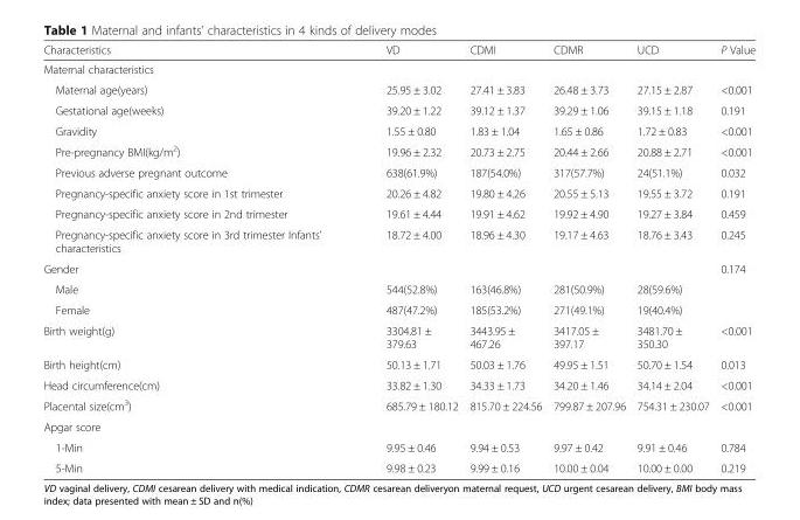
<table><thead><tr><td>Characteristics</td><td>VD</td><td>CDMI</td><td>CDMR</td><td>UCD</td><td>P Value</td></tr></thead><tbody><tr><td colspan="6">Maternal characteristics</td></tr><tr><td>Maternal age(years)</td><td>25.95 ± 3.02</td><td>27.41 ± 3.83</td><td>26.48 ± 3.73</td><td>27.15 ± 2.87</td><td>&lt;0.001</td></tr><tr><td>Gestational age(weeks)</td><td>39.20 ± 1.22</td><td>39.12 ± 1.37</td><td>39.29 ± 1.06</td><td>39.15 ± 1.18</td><td>0.191</td></tr><tr><td>Gravidity</td><td>1.55 ± 0.80</td><td>1.83 ± 1.04</td><td>1.65 ± 0.86</td><td>1.72 ± 0.83</td><td>&lt;0.001</td></tr><tr><td>Pre-pregnancy BMI(kg/m<sup>2</sup>)</td><td>19.96 ± 2.32</td><td>20.73 ± 2.75</td><td>20.44 ± 2.66</td><td>20.88 ± 2.71</td><td>&lt;0.001</td></tr><tr><td>Previous adverse pregnant outcome</td><td>638(61.9%)</td><td>187(54.0%)</td><td>317(57.7%)</td><td>24(51.1%)</td><td>0.032</td></tr><tr><td>Pregnancy-specific anxiety score in 1st trimester</td><td>20.26 ± 4.82</td><td>19.80 ± 4.26</td><td>20.55 ± 5.13</td><td>19.55 ± 3.72</td><td>0.191</td></tr><tr><td>Pregnancy-specific anxiety score in 2nd trimester</td><td>19.61 ± 4.44</td><td>19.91 ± 4.62</td><td>19.92 ± 4.90</td><td>19.27 ± 3.84</td><td>0.459</td></tr><tr><td>Pregnancy-specific anxiety score in 3rd trimester Infants’ characteristics</td><td>18.72 ± 4.00</td><td>18.96 ± 4.30</td><td>19.17 ± 4.63</td><td>18.76 ± 3.43</td><td>0.245</td></tr><tr><td>Gender</td><td></td><td></td><td></td><td></td><td>0.174</td></tr><tr><td>Male</td><td>544(52.8%)</td><td>163(46.8%)</td><td>281(50.9%)</td><td>28(59.6%)</td><td rowspan="2"></td></tr><tr><td>Female</td><td>487(47.2%)</td><td>185(53.2%)</td><td>271(49.1%)</td><td>19(40.4%)</td></tr><tr><td>Birth weight(g)</td><td>3304.81 ± 379.63</td><td>3443.95 ± 467.26</td><td>3417.05 ± 397.17</td><td>3481.70 ± 350.30</td><td>&lt;0.001</td></tr><tr><td>Birth height(cm)</td><td>50.13 ± 1.71</td><td>50.03 ± 1.76</td><td>49.95 ± 1.51</td><td>50.70 ± 1.54</td><td>0.013</td></tr><tr><td>Head circumference(cm)</td><td>33.82 ± 1.30</td><td>34.33 ± 1.73</td><td>34.20 ± 1.46</td><td>34.14 ± 2.04</td><td>&lt;0.001</td></tr><tr><td>Placental size(cm<sup>3</sup>)</td><td>685.79 ± 180.12</td><td>815.70 ± 224.56</td><td>799.87 ± 207.96</td><td>754.31 ± 230.07</td><td>&lt;0.001</td></tr><tr><td colspan="6">Apgar score</td></tr><tr><td>1-Min</td><td>9.95 ± 0.46</td><td>9.94 ± 0.53</td><td>9.97 ± 0.42</td><td>9.91 ± 0.46</td><td>0.784</td></tr><tr><td>5-Min</td><td>9.98 ± 0.23</td><td>9.99 ± 0.16</td><td>10.00 ± 0.04</td><td>10.00 ± 0.00</td><td>0.219</td></tr></tbody></table>